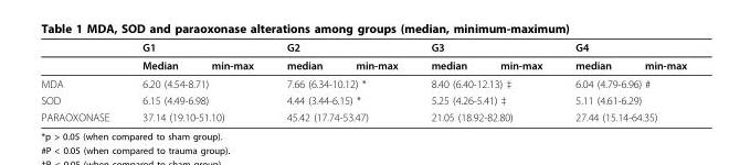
<table><thead><tr><td rowspan="2"></td><td colspan="2">G1</td><td colspan="2">G2</td><td colspan="2">G3</td><td colspan="2">G4</td></tr><tr><td>Median</td><td>min-max</td><td>median</td><td>min-max</td><td>median</td><td>min-max</td><td>median</td><td>min-max</td></tr></thead><tbody><tr><td>MDA</td><td colspan="2">6.20 (4.54-8.71)</td><td colspan="2">7.66 (6.34-10.12) *</td><td colspan="2">8.40 (6.40-12.13) ‡</td><td colspan="2">6.04 (4.79-6.96) #</td></tr><tr><td>SOD</td><td colspan="2">6.15 (4.49-6.98)</td><td colspan="2">4.44 (3.44-6.15) *</td><td colspan="2">5.25 (4.26-5.41) ‡</td><td colspan="2">5.11 (4.61-6.29)</td></tr><tr><td>PARAOXONASE</td><td colspan="2">37.14 (19.10-51.10)</td><td colspan="2">45.42 (17.74-53.47)</td><td colspan="2">21.05 (18.92-82.80)</td><td colspan="2">27.44 (15.14-64.35)</td></tr></tbody></table>